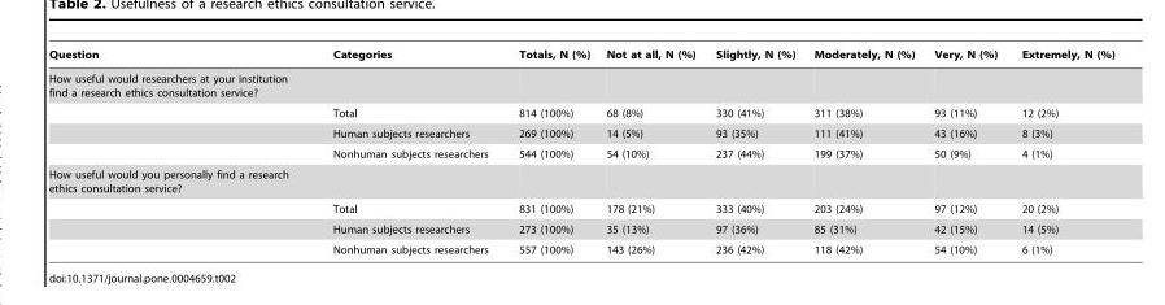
<table><thead><tr><td>Question</td><td>Categories</td><td>Totals, N (%)</td><td>Not at all, N (%)</td><td>Slightly, N (%)</td><td>Moderately, N (%)</td><td>Very, N (%)</td><td>Extremely, N (%)</td></tr></thead><tbody><tr><td colspan="8">How useful would researchers at your institution find a research ethics consultation service?</td></tr><tr><td></td><td>Total</td><td>814 (100%)</td><td>68 (8%)</td><td>330 (41%)</td><td>311 (38%)</td><td>93 (11%)</td><td>12 (2%)</td></tr><tr><td></td><td>Human subjects researchers</td><td>269 (100%)</td><td>14 (5%)</td><td>93 (35%)</td><td>111 (41%)</td><td>43 (16%)</td><td>8 (3%)</td></tr><tr><td></td><td>Nonhuman subjects researchers</td><td>544 (100%)</td><td>54 (10%)</td><td>237 (44%)</td><td>199 (37%)</td><td>50 (9%)</td><td>4 (1%)</td></tr><tr><td colspan="8">How useful would you personally find a research ethics consultation service?</td></tr><tr><td></td><td>Total</td><td>831 (100%)</td><td>178 (21%)</td><td>333 (40%)</td><td>203 (24%)</td><td>97 (12%)</td><td>20 (2%)</td></tr><tr><td></td><td>Human subjects researchers</td><td>273 (100%)</td><td>35 (13%)</td><td>97 (36%)</td><td>85 (31%)</td><td>42 (15%)</td><td>14 (5%)</td></tr><tr><td></td><td>Nonhuman subjects researchers</td><td>557 (100%)</td><td>143 (26%)</td><td>236 (42%)</td><td>118 (42%)</td><td>54 (10%)</td><td>6 (1%)</td></tr></tbody></table>